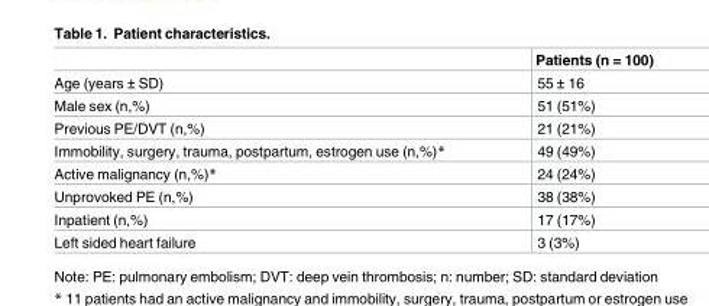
<table><thead><tr><td></td><td>Patients (n = 100)</td></tr></thead><tbody><tr><td>Age (years ± SD)</td><td>55 ± 16</td></tr><tr><td>Male sex (n,%)</td><td>51 (51%)</td></tr><tr><td>Previous PE/DVT (n,%)</td><td>21 (21%)</td></tr><tr><td>Immobility, surgery, trauma, postpartum, estrogen use (n,%)*</td><td>49 (49%)</td></tr><tr><td>Active malignancy (n,%)*</td><td>24 (24%)</td></tr><tr><td>Unprovoked PE (n,%)</td><td>38 (38%)</td></tr><tr><td>Inpatient (n,%)</td><td>17 (17%)</td></tr><tr><td>Left sided heart failure</td><td>3 (3%)</td></tr></tbody></table>